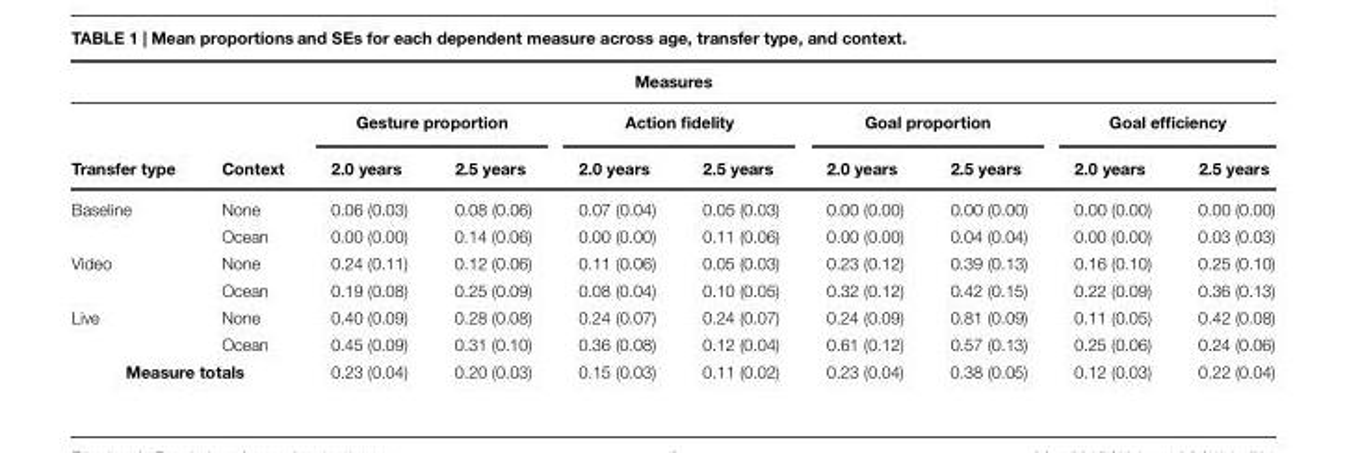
<table><thead><tr><td colspan="10">Measures</td></tr><tr><td rowspan="2">Transfer type</td><td rowspan="2">Context</td><td colspan="2">Gesture proportion</td><td colspan="2">Action fidelity</td><td colspan="2">Goal proportion</td><td colspan="2">Goal efficiency</td></tr><tr><td>2.0 years</td><td>2.5 years</td><td>2.0 years</td><td>2.5 years</td><td>2.0 years</td><td>2.5 years</td><td>2.0 years</td><td>2.5 years</td></tr></thead><tbody><tr><td rowspan="2">Baseline</td><td>None</td><td>0.06 (0.03)</td><td>0.08 (0.06)</td><td>0.07 (0.04)</td><td>0.05 (0.03)</td><td>0.00 (0.00)</td><td>0.00 (0.00)</td><td>0.00 (0.00)</td><td>0.00 (0.00)</td></tr><tr><td>Ocean</td><td>0.00 (0.00)</td><td>0.14 (0.06)</td><td>0.00 (0.00)</td><td>0.11 (0.06)</td><td>0.00 (0.00)</td><td>0.04 (0.04)</td><td>0.00 (0.00)</td><td>0.03 (0.03)</td></tr><tr><td rowspan="2">Video</td><td>None</td><td>0.24 (0.11)</td><td>0.12 (0.06)</td><td>0.11 (0.06)</td><td>0.05 (0.03)</td><td>0.23 (0.12)</td><td>0.39 (0.13)</td><td>0.16 (0.10)</td><td>0.25 (0.10)</td></tr><tr><td>Ocean</td><td>0.19 (0.08)</td><td>0.25 (0.09)</td><td>0.08 (0.04)</td><td>0.10 (0.05)</td><td>0.32 (0.12)</td><td>0.42 (0.15)</td><td>0.22 (0.09)</td><td>0.36 (0.13)</td></tr><tr><td rowspan="2">Live</td><td>None</td><td>0.40 (0.09)</td><td>0.28 (0.08)</td><td>0.24 (0.07)</td><td>0.24 (0.07)</td><td>0.24 (0.09)</td><td>0.81 (0.09)</td><td>0.11 (0.05)</td><td>0.42 (0.08)</td></tr><tr><td>Ocean</td><td>0.45 (0.09)</td><td>0.31 (0.10)</td><td>0.36 (0.08)</td><td>0.12 (0.04)</td><td>0.61 (0.12)</td><td>0.57 (0.13)</td><td>0.25 (0.06)</td><td>0.24 (0.06)</td></tr><tr><td colspan="2">Measure totals</td><td>0.23 (0.04)</td><td>0.20 (0.03)</td><td>0.15 (0.03)</td><td>0.11 (0.02)</td><td>0.23 (0.04)</td><td>0.38 (0.05)</td><td>0.12 (0.03)</td><td>0.22 (0.04)</td></tr></tbody></table>